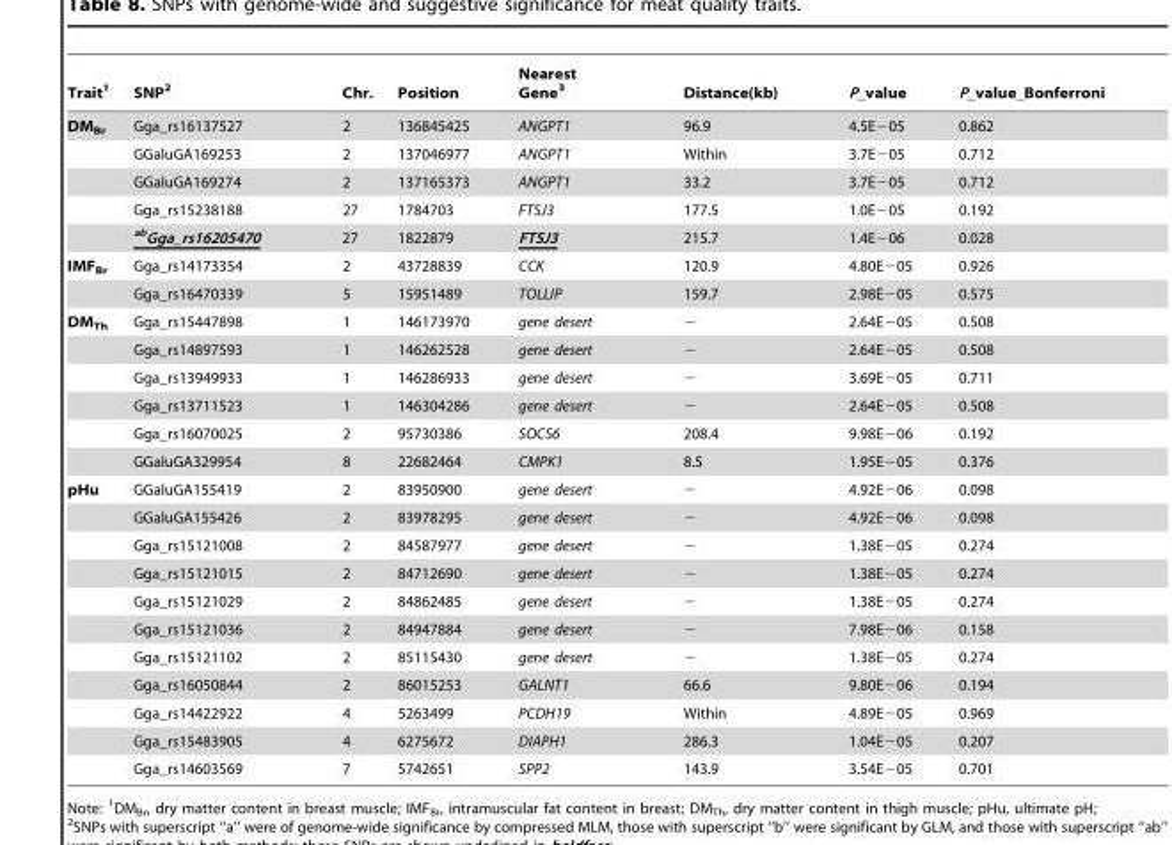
<table><thead><tr><td>Trait<sup>1</sup></td><td>SNP<sup>2</sup></td><td>Chr.</td><td>Position</td><td>Nearest Gene<sup>3</sup></td><td>Distance(kb)</td><td>P_value</td><td>P_value_Bonferroni</td></tr></thead><tbody><tr><td rowspan="5">DM<sub>Br</sub></td><td>Gga_rs16137527</td><td>2</td><td>136845425</td><td>ANGPT1</td><td>96.9</td><td>4.5E−05</td><td>0.862</td></tr><tr><td>GGaluGA169253</td><td>2</td><td>137046977</td><td>ANGPT1</td><td>Within</td><td>3.7E−05</td><td>0.712</td></tr><tr><td>GGaluGA169274</td><td>2</td><td>137165373</td><td>ANGPT1</td><td>33.2</td><td>3.7E−05</td><td>0.712</td></tr><tr><td>Gga_rs15238188</td><td>27</td><td>1784703</td><td>FTSJ3</td><td>177.5</td><td>1.0E−05</td><td>0.192</td></tr><tr><td><sup>ab</sup>Gga_rs16205470</td><td>27</td><td>1822879</td><td>FTSJ3</td><td>215.7</td><td>1.4E−06</td><td>0.028</td></tr><tr><td rowspan="2">IMF<sub>Br</sub></td><td>Gga_rs14173354</td><td>2</td><td>43728839</td><td>CCK</td><td>120.9</td><td>4.80E−05</td><td>0.926</td></tr><tr><td>Gga_rs16470339</td><td>5</td><td>15951489</td><td>TOLLIP</td><td>159.7</td><td>2.98E−05</td><td>0.575</td></tr><tr><td rowspan="6">DM<sub>Th</sub></td><td>Gga_rs15447898</td><td>1</td><td>146173970</td><td>gene desert</td><td>−</td><td>2.64E−05</td><td>0.508</td></tr><tr><td>Gga_rs14897593</td><td>1</td><td>146262528</td><td>gene desert</td><td>−</td><td>2.64E−05</td><td>0.508</td></tr><tr><td>Gga_rs13949933</td><td>1</td><td>146286933</td><td>gene desert</td><td>−</td><td>3.69E−05</td><td>0.711</td></tr><tr><td>Gga_rs13711523</td><td>1</td><td>146304286</td><td>gene desert</td><td>−</td><td>2.64E−05</td><td>0.508</td></tr><tr><td>Gga_rs16070025</td><td>2</td><td>95730386</td><td>SOCS6</td><td>208.4</td><td>9.98E−06</td><td>0.192</td></tr><tr><td>GGaluGA329954</td><td>8</td><td>22682464</td><td>CMPK1</td><td>8.5</td><td>1.95E−05</td><td>0.376</td></tr><tr><td rowspan="11">pHu</td><td>GGaluGA155419</td><td>2</td><td>83950900</td><td>gene desert</td><td>−</td><td>4.92E−06</td><td>0.098</td></tr><tr><td>GGaluGA155426</td><td>2</td><td>83978295</td><td>gene desert</td><td>−</td><td>4.92E−06</td><td>0.098</td></tr><tr><td>Gga_rs15121008</td><td>2</td><td>84587977</td><td>gene desert</td><td>−</td><td>1.38E−05</td><td>0.274</td></tr><tr><td>Gga_rs15121015</td><td>2</td><td>84712690</td><td>gene desert</td><td>−</td><td>1.38E−05</td><td>0.274</td></tr><tr><td>Gga_rs15121029</td><td>2</td><td>84862485</td><td>gene desert</td><td>−</td><td>1.38E−05</td><td>0.274</td></tr><tr><td>Gga_rs15121036</td><td>2</td><td>84947884</td><td>gene desert</td><td>−</td><td>7.98E−06</td><td>0.158</td></tr><tr><td>Gga_rs15121102</td><td>2</td><td>85115430</td><td>gene desert</td><td>−</td><td>1.38E−05</td><td>0.274</td></tr><tr><td>Gga_rs16050844</td><td>2</td><td>86015253</td><td>GALNT1</td><td>66.6</td><td>9.80E−06</td><td>0.194</td></tr><tr><td>Gga_rs14422922</td><td>4</td><td>5263499</td><td>PCDH19</td><td>Within</td><td>4.89E−05</td><td>0.969</td></tr><tr><td>Gga_rs15483905</td><td>4</td><td>6275672</td><td>DIAPH1</td><td>286.3</td><td>1.04E−05</td><td>0.207</td></tr><tr><td>Gga_rs14603569</td><td>7</td><td>5742651</td><td>SPP2</td><td>143.9</td><td>3.54E−05</td><td>0.701</td></tr></tbody></table>